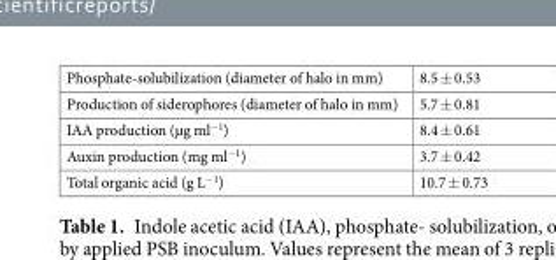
<table><tbody><tr><td>Phosphate-solubilization (diameter of halo in mm)</td><td>8.5 ± 0.53</td></tr><tr><td>Production of siderophores (diameter of halo in mm)</td><td>5.7 ± 0.81</td></tr><tr><td>IAA production (µg ml<sup>−1</sup>)</td><td>8.4 ± 0.61</td></tr><tr><td>Auxin production (mg ml<sup>−1</sup>)</td><td>3.7 ± 0.42</td></tr><tr><td>Total organic acid (g L<sup>−1</sup>)</td><td>10.7 ± 0.73</td></tr></tbody></table>